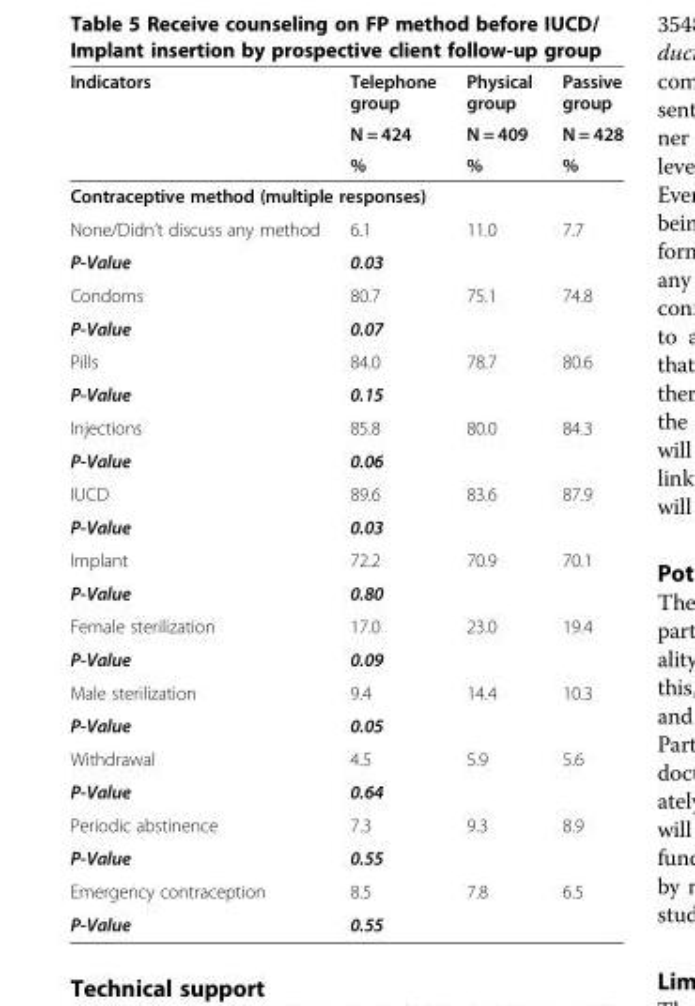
<table><thead><tr><td rowspan="3">Indicators</td><td rowspan="3">Telephone group N = 424 %</td><td rowspan="3">Physical group N = 409 %</td><td rowspan="3">Passive group N = 428 %</td></tr><tr></tr><tr></tr></thead><tbody><tr><td colspan="4">Contraceptive method (multiple responses)</td></tr><tr><td>None/Didn’t discuss any method</td><td>6.1</td><td>11.0</td><td>7.7</td></tr><tr><td>P-Value</td><td colspan="3">0.03</td></tr><tr><td>Condoms</td><td>80.7</td><td>75.1</td><td>74.8</td></tr><tr><td>P-Value</td><td colspan="3">0.07</td></tr><tr><td>Pills</td><td>84.0</td><td>78.7</td><td>80.6</td></tr><tr><td>P-Value</td><td colspan="3">0.15</td></tr><tr><td>Injections</td><td>85.8</td><td>80.0</td><td>84.3</td></tr><tr><td>P-Value</td><td colspan="3">0.06</td></tr><tr><td>IUCD</td><td>89.6</td><td>83.6</td><td>87.9</td></tr><tr><td>P-Value</td><td colspan="3">0.03</td></tr><tr><td>Implant</td><td>72.2</td><td>70.9</td><td>70.1</td></tr><tr><td>P-Value</td><td colspan="3">0.80</td></tr><tr><td>Female sterilization</td><td>17.0</td><td>23.0</td><td>19.4</td></tr><tr><td>P-Value</td><td colspan="3">0.09</td></tr><tr><td>Male sterilization</td><td>9.4</td><td>14.4</td><td>10.3</td></tr><tr><td>P-Value</td><td colspan="3">0.05</td></tr><tr><td>Withdrawal</td><td>4.5</td><td>5.9</td><td>5.6</td></tr><tr><td>P-Value</td><td colspan="3">0.64</td></tr><tr><td>Periodic abstinence</td><td>7.3</td><td>9.3</td><td>8.9</td></tr><tr><td>P-Value</td><td colspan="3">0.55</td></tr><tr><td>Emergency contraception</td><td>8.5</td><td>7.8</td><td>6.5</td></tr><tr><td>P-Value</td><td colspan="3">0.55</td></tr></tbody></table>